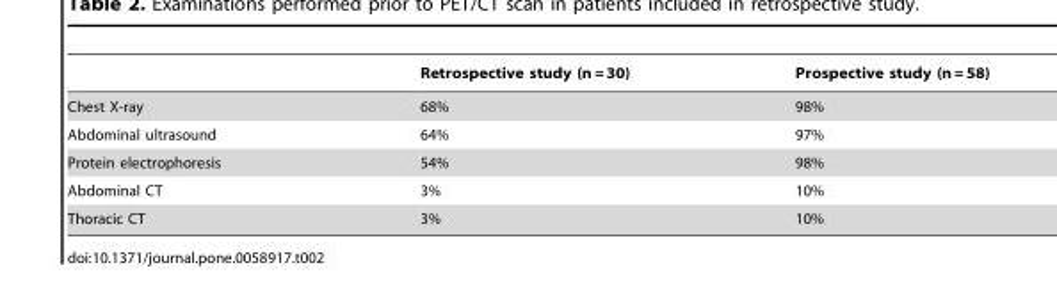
<table><thead><tr><td></td><td>Retrospective study (n = 30)</td><td>Prospective study (n = 58)</td></tr></thead><tbody><tr><td>Chest X-ray</td><td>68%</td><td>98%</td></tr><tr><td>Abdominal ultrasound</td><td>64%</td><td>97%</td></tr><tr><td>Protein electrophoresis</td><td>54%</td><td>98%</td></tr><tr><td>Abdominal CT</td><td>3%</td><td>10%</td></tr><tr><td>Thoracic CT</td><td>3%</td><td>10%</td></tr></tbody></table>